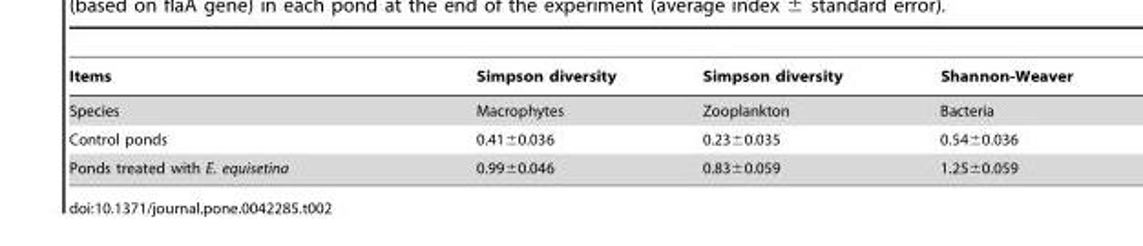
<table><thead><tr><td>Items</td><td>Simpson diversity</td><td>Simpson diversity</td><td>Shannon-Weaver</td></tr></thead><tbody><tr><td>Species</td><td>Macrophytes</td><td>Zooplankton</td><td>Bacteria</td></tr><tr><td>Control ponds</td><td>0.41±0.036</td><td>0.23±0.035</td><td>0.54±0.036</td></tr><tr><td>Ponds treated with E. equisetina</td><td>0.99±0.046</td><td>0.83±0.059</td><td>1.25±0.059</td></tr></tbody></table>